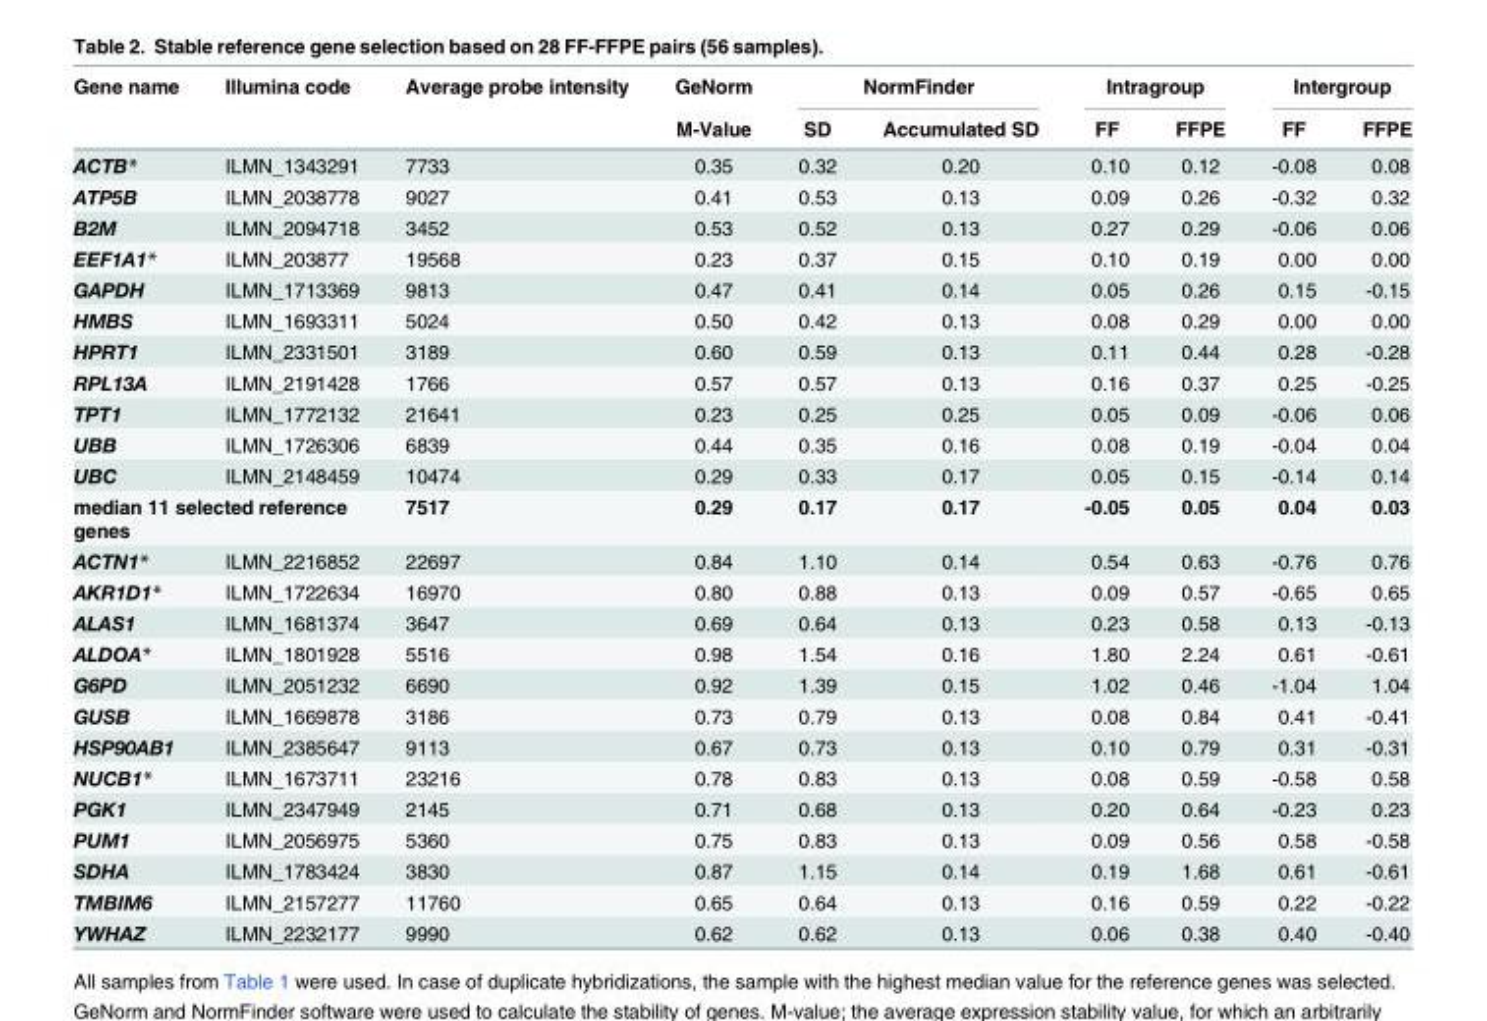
<table><thead><tr><td rowspan="2">Gene name</td><td rowspan="2">Illumina code</td><td rowspan="2">Average probe intensity</td><td rowspan="2">GeNorm M-Value</td><td colspan="2">NormFinder</td><td colspan="2">Intragroup</td><td colspan="2">Intergroup</td></tr><tr><td>SD</td><td>Accumulated SD</td><td>FF</td><td>FFPE</td><td>FF</td><td>FFPE</td></tr></thead><tbody><tr><td>ACTB*</td><td>ILMN_1343291</td><td>7733</td><td>0.35</td><td>0.32</td><td>0.20</td><td>0.10</td><td>0.12</td><td>-0.08</td><td>0.08</td></tr><tr><td>ATP5B</td><td>ILMN_2038778</td><td>9027</td><td>0.41</td><td>0.53</td><td>0.13</td><td>0.09</td><td>0.26</td><td>-0.32</td><td>0.32</td></tr><tr><td>B2M</td><td>ILMN_2094718</td><td>3452</td><td>0.53</td><td>0.52</td><td>0.13</td><td>0.27</td><td>0.29</td><td>-0.06</td><td>0.06</td></tr><tr><td>EEF1A1*</td><td>ILMN_203877</td><td>19568</td><td>0.23</td><td>0.37</td><td>0.15</td><td>0.10</td><td>0.19</td><td>0.00</td><td>0.00</td></tr><tr><td>GAPDH</td><td>ILMN_1713369</td><td>9813</td><td>0.47</td><td>0.41</td><td>0.14</td><td>0.05</td><td>0.26</td><td>0.15</td><td>-0.15</td></tr><tr><td>HMBS</td><td>ILMN_1693311</td><td>5024</td><td>0.50</td><td>0.42</td><td>0.13</td><td>0.08</td><td>0.29</td><td>0.00</td><td>0.00</td></tr><tr><td>HPRT1</td><td>ILMN_2331501</td><td>3189</td><td>0.60</td><td>0.59</td><td>0.13</td><td>0.11</td><td>0.44</td><td>0.28</td><td>-0.28</td></tr><tr><td>RPL13A</td><td>ILMN_2191428</td><td>1766</td><td>0.57</td><td>0.57</td><td>0.13</td><td>0.16</td><td>0.37</td><td>0.25</td><td>-0.25</td></tr><tr><td>TPT1</td><td>ILMN_1772132</td><td>21641</td><td>0.23</td><td>0.25</td><td>0.25</td><td>0.05</td><td>0.09</td><td>-0.06</td><td>0.06</td></tr><tr><td>UBB</td><td>ILMN_1726306</td><td>6839</td><td>0.44</td><td>0.35</td><td>0.16</td><td>0.08</td><td>0.19</td><td>-0.04</td><td>0.04</td></tr><tr><td>UBC</td><td>ILMN_2148459</td><td>10474</td><td>0.29</td><td>0.33</td><td>0.17</td><td>0.05</td><td>0.15</td><td>-0.14</td><td>0.14</td></tr><tr><td colspan="2">median 11 selected reference genes</td><td>7517</td><td>0.29</td><td>0.17</td><td>0.17</td><td>-0.05</td><td>0.05</td><td>0.04</td><td>0.03</td></tr><tr><td>ACTN1*</td><td>ILMN_2216852</td><td>22697</td><td>0.84</td><td>1.10</td><td>0.14</td><td>0.54</td><td>0.63</td><td>-0.76</td><td>0.76</td></tr><tr><td>AKR1D1*</td><td>ILMN_1722634</td><td>16970</td><td>0.80</td><td>0.88</td><td>0.13</td><td>0.09</td><td>0.57</td><td>-0.65</td><td>0.65</td></tr><tr><td>ALAS1</td><td>ILMN_1681374</td><td>3647</td><td>0.69</td><td>0.64</td><td>0.13</td><td>0.23</td><td>0.58</td><td>0.13</td><td>-0.13</td></tr><tr><td>ALDOA*</td><td>ILMN_1801928</td><td>5516</td><td>0.98</td><td>1.54</td><td>0.16</td><td>1.80</td><td>2.24</td><td>0.61</td><td>-0.61</td></tr><tr><td>G6PD</td><td>ILMN_2051232</td><td>6690</td><td>0.92</td><td>1.39</td><td>0.15</td><td>1.02</td><td>0.46</td><td>-1.04</td><td>1.04</td></tr><tr><td>GUSB</td><td>ILMN_1669878</td><td>3186</td><td>0.73</td><td>0.79</td><td>0.13</td><td>0.08</td><td>0.84</td><td>0.41</td><td>-0.41</td></tr><tr><td>HSP90AB1</td><td>ILMN_2385647</td><td>9113</td><td>0.67</td><td>0.73</td><td>0.13</td><td>0.10</td><td>0.79</td><td>0.31</td><td>-0.31</td></tr><tr><td>NUCB1*</td><td>ILMN_1673711</td><td>23216</td><td>0.78</td><td>0.83</td><td>0.13</td><td>0.08</td><td>0.59</td><td>-0.58</td><td>0.58</td></tr><tr><td>PGK1</td><td>ILMN_2347949</td><td>2145</td><td>0.71</td><td>0.68</td><td>0.13</td><td>0.20</td><td>0.64</td><td>-0.23</td><td>0.23</td></tr><tr><td>PUM1</td><td>ILMN_2056975</td><td>5360</td><td>0.75</td><td>0.83</td><td>0.13</td><td>0.09</td><td>0.56</td><td>0.58</td><td>-0.58</td></tr><tr><td>SDHA</td><td>ILMN_1783424</td><td>3830</td><td>0.87</td><td>1.15</td><td>0.14</td><td>0.19</td><td>1.68</td><td>0.61</td><td>-0.61</td></tr><tr><td>TMBIM6</td><td>ILMN_2157277</td><td>11760</td><td>0.65</td><td>0.64</td><td>0.13</td><td>0.16</td><td>0.59</td><td>0.22</td><td>-0.22</td></tr><tr><td>YWHAZ</td><td>ILMN_2232177</td><td>9990</td><td>0.62</td><td>0.62</td><td>0.13</td><td>0.06</td><td>0.38</td><td>0.40</td><td>-0.40</td></tr></tbody></table>